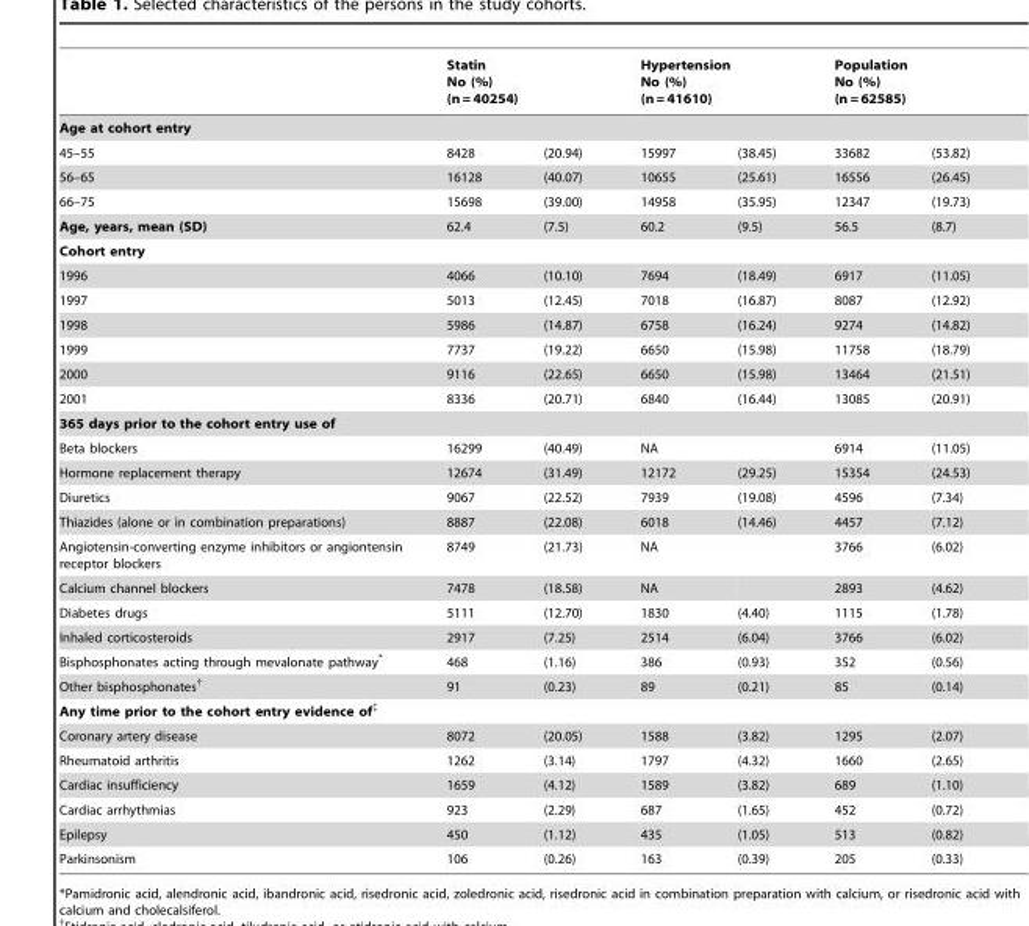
<table><thead><tr><td></td><td colspan="2">Statin No (%) (n = 40254)</td><td colspan="2">Hypertension No (%) (n = 41610)</td><td colspan="2">Population No (%) (n = 62585)</td></tr><tr><td colspan="7">Age at cohort entry</td></tr><tr><td>45–55</td><td>8428</td><td>(20.94)</td><td>15997</td><td>(38.45)</td><td>33682</td><td>(53.82)</td></tr></thead><tbody><tr><td>56–65</td><td>16128</td><td>(40.07)</td><td>10655</td><td>(25.61)</td><td>16556</td><td>(26.45)</td></tr><tr><td>66–75</td><td>15698</td><td>(39.00)</td><td>14958</td><td>(35.95)</td><td>12347</td><td>(19.73)</td></tr><tr><td>Age, years, mean (SD)</td><td>62.4</td><td>(7.5)</td><td>60.2</td><td>(9.5)</td><td>56.5</td><td>(8.7)</td></tr><tr><td colspan="7">Cohort entry</td></tr><tr><td>1996</td><td>4066</td><td>(10.10)</td><td>7694</td><td>(18.49)</td><td>6917</td><td>(11.05)</td></tr><tr><td>1997</td><td>5013</td><td>(12.45)</td><td>7018</td><td>(16.87)</td><td>8087</td><td>(12.92)</td></tr><tr><td>1998</td><td>5986</td><td>(14.87)</td><td>6758</td><td>(16.24)</td><td>9274</td><td>(14.82)</td></tr><tr><td>1999</td><td>7737</td><td>(19.22)</td><td>6650</td><td>(15.98)</td><td>11758</td><td>(18.79)</td></tr><tr><td>2000</td><td>9116</td><td>(22.65)</td><td>6650</td><td>(15.98)</td><td>13464</td><td>(21.51)</td></tr><tr><td>2001</td><td>8336</td><td>(20.71)</td><td>6840</td><td>(16.44)</td><td>13085</td><td>(20.91)</td></tr><tr><td colspan="7">365 days prior to the cohort entry use of</td></tr><tr><td>Beta blockers</td><td>16299</td><td>(40.49)</td><td>NA</td><td></td><td>6914</td><td>(11.05)</td></tr><tr><td>Hormone replacement therapy</td><td>12674</td><td>(31.49)</td><td>12172</td><td>(29.25)</td><td>15354</td><td>(24.53)</td></tr><tr><td>Diuretics</td><td>9067</td><td>(22.52)</td><td>7939</td><td>(19.08)</td><td>4596</td><td>(7.34)</td></tr><tr><td>Thiazides (alone or in combination preparations)</td><td>8887</td><td>(22.08)</td><td>6018</td><td>(14.46)</td><td>4457</td><td>(7.12)</td></tr><tr><td>Angiotensin-converting enzyme inhibitors or angiontensin receptor blockers</td><td>8749</td><td>(21.73)</td><td>NA</td><td></td><td>3766</td><td>(6.02)</td></tr><tr><td>Calcium channel blockers</td><td>7478</td><td>(18.58)</td><td>NA</td><td></td><td>2893</td><td>(4.62)</td></tr><tr><td>Diabetes drugs</td><td>5111</td><td>(12.70)</td><td>1830</td><td>(4.40)</td><td>1115</td><td>(1.78)</td></tr><tr><td>Inhaled corticosteroids</td><td>2917</td><td>(7.25)</td><td>2514</td><td>(6.04)</td><td>3766</td><td>(6.02)</td></tr><tr><td>Bisphosphonates acting through mevalonate pathway*</td><td>468</td><td>(1.16)</td><td>386</td><td>(0.93)</td><td>352</td><td>(0.56)</td></tr><tr><td>Other bisphosphonates†</td><td>91</td><td>(0.23)</td><td>89</td><td>(0.21)</td><td>85</td><td>(0.14)</td></tr><tr><td colspan="7">Any time prior to the cohort entry evidence of‡</td></tr><tr><td>Coronary artery disease</td><td>8072</td><td>(20.05)</td><td>1588</td><td>(3.82)</td><td>1295</td><td>(2.07)</td></tr><tr><td>Rheumatoid arthritis</td><td>1262</td><td>(3.14)</td><td>1797</td><td>(4.32)</td><td>1660</td><td>(2.65)</td></tr><tr><td>Cardiac insufficiency</td><td>1659</td><td>(4.12)</td><td>1589</td><td>(3.82)</td><td>689</td><td>(1.10)</td></tr><tr><td>Cardiac arrhythmias</td><td>923</td><td>(2.29)</td><td>687</td><td>(1.65)</td><td>452</td><td>(0.72)</td></tr><tr><td>Epilepsy</td><td>450</td><td>(1.12)</td><td>435</td><td>(1.05)</td><td>513</td><td>(0.82)</td></tr><tr><td>Parkinsonism</td><td>106</td><td>(0.26)</td><td>163</td><td>(0.39)</td><td>205</td><td>(0.33)</td></tr></tbody></table>